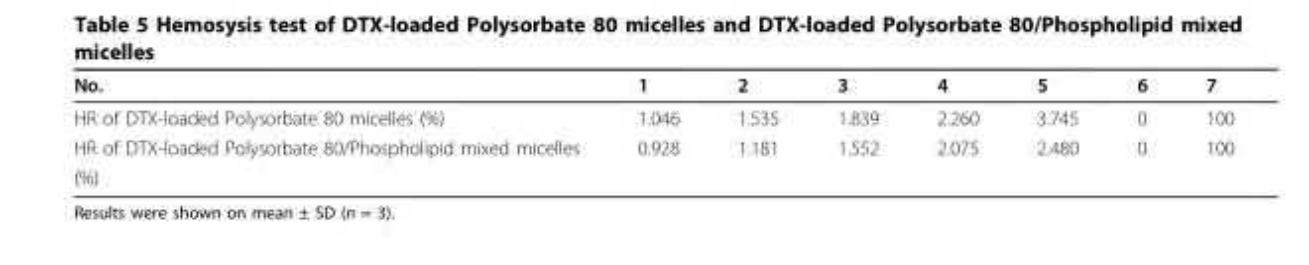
<table><thead><tr><td>No.</td><td>1</td><td>2</td><td>3</td><td>4</td><td>5</td><td>6</td><td>7</td></tr></thead><tbody><tr><td>HR of DTX-loaded Polysorbate 80 micelles (%)</td><td>1.046</td><td>1.535</td><td>1.839</td><td>2.260</td><td>3.745</td><td>0</td><td>100</td></tr><tr><td>HR of DTX-loaded Polysorbate 80/Phospholipid mixed micelles</td><td>0.928</td><td>1.181</td><td>1.552</td><td>2.075</td><td>2.480</td><td>0</td><td>100</td></tr><tr><td>(%)</td><td></td><td></td><td></td><td></td><td></td><td></td><td></td></tr></tbody></table>